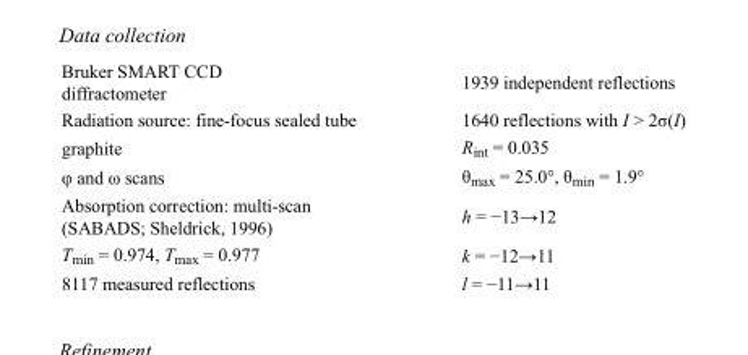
<table><tbody><tr><td>Bruker SMART CCD diffractometer</td><td>1939 independent reflections</td></tr><tr><td>Radiation source: fine-focus sealed tube</td><td>1640 reflections with I &gt; 2σ(I)</td></tr><tr><td>graphite</td><td>R<sub>int</sub> = 0.035</td></tr><tr><td>φ and ω scans</td><td>θ<sub>max</sub> = 25.0°, θ<sub>min</sub> = 1.9°</td></tr><tr><td>Absorption correction: multi-scan (SABADS; Sheldrick, 1996)</td><td>h = −13→12</td></tr><tr><td>T<sub>min</sub> = 0.974, T<sub>max</sub> = 0.977</td><td>k = −12→11</td></tr><tr><td>8117 measured reflections</td><td>l = −11→11</td></tr></tbody></table>